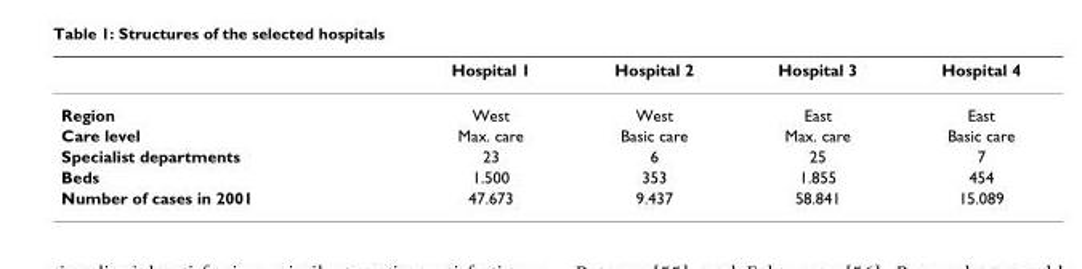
<table><thead><tr><td></td><td>Hospital 1</td><td>Hospital 2</td><td>Hospital 3</td><td>Hospital 4</td></tr></thead><tbody><tr><td>Region</td><td>West</td><td>West</td><td>East</td><td>East</td></tr><tr><td>Care level</td><td>Max. care</td><td>Basic care</td><td>Max. care</td><td>Basic care</td></tr><tr><td>Specialist departments</td><td>23</td><td>6</td><td>25</td><td>7</td></tr><tr><td>Beds</td><td>1.500</td><td>353</td><td>1.855</td><td>454</td></tr><tr><td>Number of cases in 2001</td><td>47.673</td><td>9.437</td><td>58.841</td><td>15.089</td></tr></tbody></table>